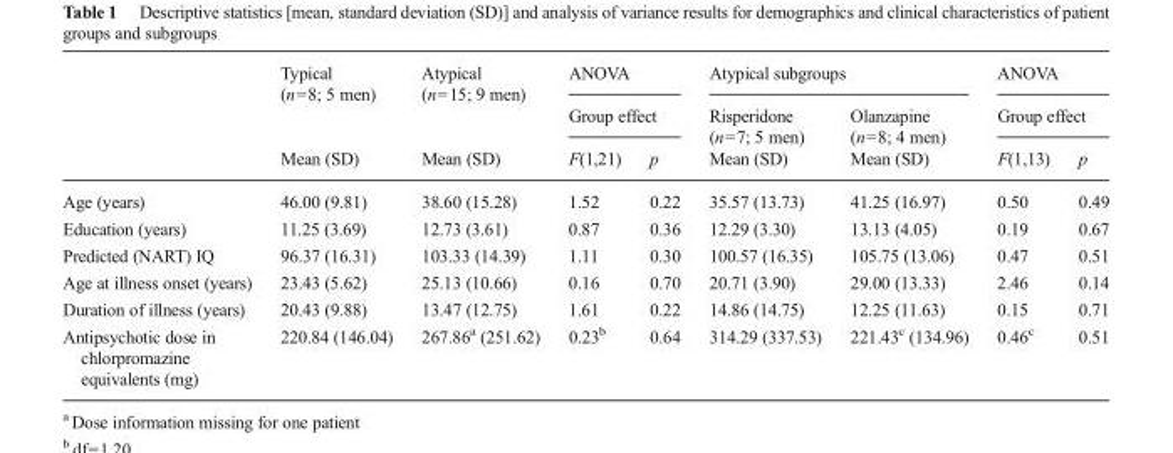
<table><thead><tr><td rowspan="3"></td><td rowspan="3">Typical (n=8; 5 men) Mean (SD)</td><td rowspan="3">Atypical (n=15; 9 men) Mean (SD)</td><td rowspan="2" colspan="2">ANOVA Group effect</td><td colspan="2">Atypical subgroups</td><td rowspan="2" colspan="2">ANOVA Group effect</td></tr><tr><td rowspan="2">Risperidone (n=7; 5 men) Mean (SD)</td><td rowspan="2">Olanzapine (n=8; 4 men) Mean (SD)</td></tr><tr><td>F(1,21)</td><td>p</td><td>F(1,13)</td><td>p</td></tr></thead><tbody><tr><td>Age (years)</td><td>46.00 (9.81)</td><td>38.60 (15.28)</td><td>1.52</td><td>0.22</td><td>35.57 (13.73)</td><td>41.25 (16.97)</td><td>0.50</td><td>0.49</td></tr><tr><td>Education (years)</td><td>11.25 (3.69)</td><td>12.73 (3.61)</td><td>0.87</td><td>0.36</td><td>12.29 (3.30)</td><td>13.13 (4.05)</td><td>0.19</td><td>0.67</td></tr><tr><td>Predicted (NART) IQ</td><td>96.37 (16.31)</td><td>103.33 (14.39)</td><td>1.11</td><td>0.30</td><td>100.57 (16.35)</td><td>105.75 (13.06)</td><td>0.47</td><td>0.51</td></tr><tr><td>Age at illness onset (years)</td><td>23.43 (5.62)</td><td>25.13 (10.66)</td><td>0.16</td><td>0.70</td><td>20.71 (3.90)</td><td>29.00 (13.33)</td><td>2.46</td><td>0.14</td></tr><tr><td>Duration of illness (years)</td><td>20.43 (9.88)</td><td>13.47 (12.75)</td><td>1.61</td><td>0.22</td><td>14.86 (14.75)</td><td>12.25 (11.63)</td><td>0.15</td><td>0.71</td></tr><tr><td>Antipsychotic dose in chlorpromazine equivalents (mg)</td><td>220.84 (146.04)</td><td>267.86<sup>a</sup> (251.62)</td><td>0.23<sup>b</sup></td><td>0.64</td><td>314.29 (337.53)</td><td>221.43<sup>c</sup> (134.96)</td><td>0.46<sup>c</sup></td><td>0.51</td></tr></tbody></table>